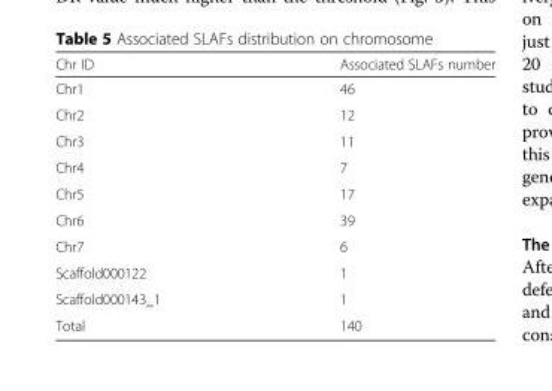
<table><thead><tr><td>Chr ID</td><td>Associated SLAFs number</td></tr></thead><tbody><tr><td>Chr1</td><td>46</td></tr><tr><td>Chr2</td><td>12</td></tr><tr><td>Chr3</td><td>11</td></tr><tr><td>Chr4</td><td>7</td></tr><tr><td>Chr5</td><td>17</td></tr><tr><td>Chr6</td><td>39</td></tr><tr><td>Chr7</td><td>6</td></tr><tr><td>Scaffold000122</td><td>1</td></tr><tr><td>Scaffold000143_1</td><td>1</td></tr><tr><td>Total</td><td>140</td></tr></tbody></table>